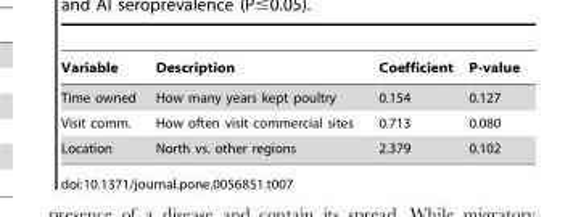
<table><thead><tr><td>Variable</td><td>Description</td><td>Coefficient</td><td>P-value</td></tr></thead><tbody><tr><td>Time owned</td><td>How many years kept poultry</td><td>0.154</td><td>0.127</td></tr><tr><td>Visit comm.</td><td>How often visit commercial sites</td><td>0.713</td><td>0.080</td></tr><tr><td>Location</td><td>North vs. other regions</td><td>2.379</td><td>0.102</td></tr></tbody></table>